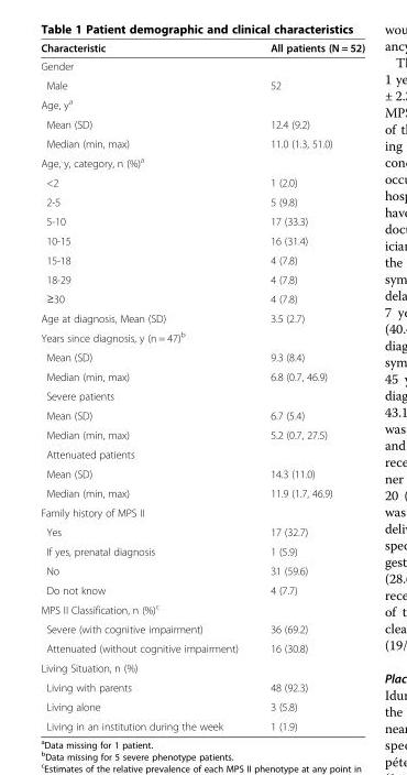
<table><thead><tr><td>Characteristic</td><td>All patients (N = 52)</td></tr></thead><tbody><tr><td colspan="2">Gender</td></tr><tr><td>Male</td><td>52</td></tr><tr><td colspan="2">Age, y<sup>a</sup></td></tr><tr><td>Mean (SD)</td><td>12.4 (9.2)</td></tr><tr><td>Median (min, max)</td><td>11.0 (1.3, 51.0)</td></tr><tr><td colspan="2">Age, y, category, n (%)<sup>a</sup></td></tr><tr><td>&lt;2</td><td>1 (2.0)</td></tr><tr><td>2-5</td><td>5 (9.8)</td></tr><tr><td>5-10</td><td>17 (33.3)</td></tr><tr><td>10-15</td><td>16 (31.4)</td></tr><tr><td>15-18</td><td>4 (7.8)</td></tr><tr><td>18-29</td><td>4 (7.8)</td></tr><tr><td>≥30</td><td>4 (7.8)</td></tr><tr><td>Age at diagnosis, Mean (SD)</td><td>3.5 (2.7)</td></tr><tr><td colspan="2">Years since diagnosis, y (n = 47)<sup>b</sup></td></tr><tr><td>Mean (SD)</td><td>9.3 (8.4)</td></tr><tr><td>Median (min, max)</td><td>6.8 (0.7, 46.9)</td></tr><tr><td colspan="2">Severe patients</td></tr><tr><td>Mean (SD)</td><td>6.7 (5.4)</td></tr><tr><td>Median (min, max)</td><td>5.2 (0.7, 27.5)</td></tr><tr><td colspan="2">Attenuated patients</td></tr><tr><td>Mean (SD)</td><td>14.3 (11.0)</td></tr><tr><td>Median (min, max)</td><td>11.9 (1.7, 46.9)</td></tr><tr><td colspan="2">Family history of MPS II</td></tr><tr><td>Yes</td><td>17 (32.7)</td></tr><tr><td>If yes, prenatal diagnosis</td><td>1 (5.9)</td></tr><tr><td>No</td><td>31 (59.6)</td></tr><tr><td>Do not know</td><td>4 (7.7)</td></tr><tr><td colspan="2">MPS II Classification, n (%)<sup>c</sup></td></tr><tr><td>Severe (with cognitive impairment)</td><td>36 (69.2)</td></tr><tr><td>Attenuated (without cognitive impairment)</td><td>16 (30.8)</td></tr><tr><td colspan="2">Living Situation, n (%)</td></tr><tr><td>Living with parents</td><td>48 (92.3)</td></tr><tr><td>Living alone</td><td>3 (5.8)</td></tr><tr><td>Living in an institution during the week</td><td>1 (1.9)</td></tr></tbody></table>